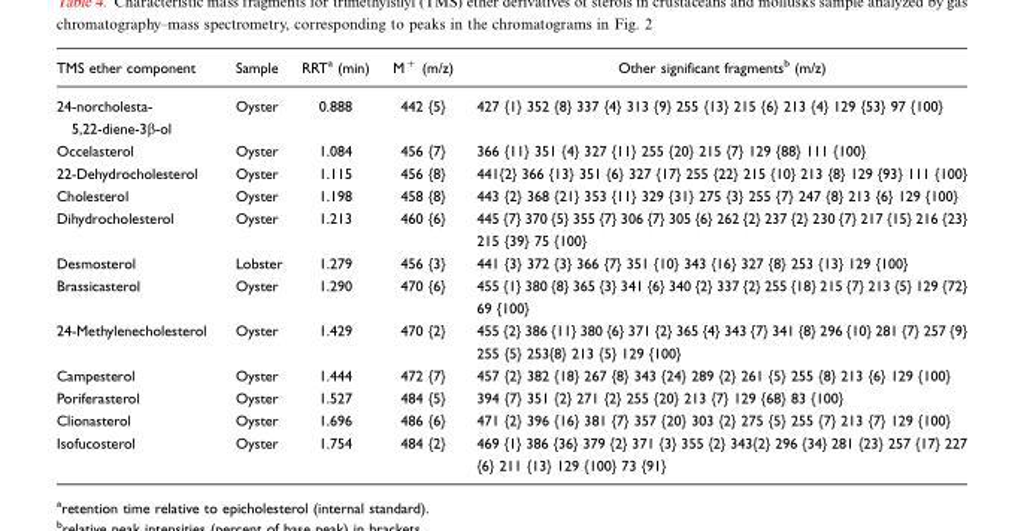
<table><thead><tr><td>TMS ether component</td><td>Sample</td><td>RRT<sup>a</sup> (min)</td><td>M<sup>+</sup> (m/z)</td><td>Other significant fragments<sup>b</sup> (m/z)</td></tr></thead><tbody><tr><td>24-norcholesta- 5,22-diene-3b-ol</td><td>Oyster</td><td>0.888</td><td>442 {5}</td><td>427 {1} 352 {8} 337 {4} 313 {9} 255 {13} 215 {6} 213 {4} 129 {53} 97 {100}</td></tr><tr><td>Occelasterol</td><td>Oyster</td><td>1.084</td><td>456 {7}</td><td>366 {11} 351 {4} 327 {11} 255 {20} 215 {7} 129 {88} 111 {100}</td></tr><tr><td>22-Dehydrocholesterol</td><td>Oyster</td><td>1.115</td><td>456 {8}</td><td>441{2} 366 {13} 351 {6} 327 {17} 255 {22} 215 {10} 213 {8} 129 {93} 111 {100}</td></tr><tr><td>Cholesterol</td><td>Oyster</td><td>1.198</td><td>458 {8}</td><td>443 {2} 368 {21} 353 {11} 329 {31} 275 {3} 255 {7} 247 {8} 213 {6} 129 {100}</td></tr><tr><td>Dihydrocholesterol</td><td>Oyster</td><td>1.213</td><td>460 {6}</td><td>445 {7} 370 {5} 355 {7} 306 {7} 305 {6} 262 {2} 237 {2} 230 {7} 217 {15} 216 {23} 215 {39} 75 {100}</td></tr><tr><td>Desmosterol</td><td>Lobster</td><td>1.279</td><td>456 {3}</td><td>441 {3} 372 {3} 366 {7} 351 {10} 343 {16} 327 {8} 253 {13} 129 {100}</td></tr><tr><td>Brassicasterol</td><td>Oyster</td><td>1.290</td><td>470 {6}</td><td>455 {1} 380 {8} 365 {3} 341 {6} 340 {2} 337 {2} 255 {18} 215 {7} 213 {5} 129 {72} 69 {100}</td></tr><tr><td>24-Methylenecholesterol</td><td>Oyster</td><td>1.429</td><td>470 {2}</td><td>455 {2} 386 {11} 380 {6} 371 {2} 365 {4} 343 {7} 341 {8} 296 {10} 281 {7} 257 {9} 255 {5} 253{8} 213 {5} 129 {100}</td></tr><tr><td>Campesterol</td><td>Oyster</td><td>1.444</td><td>472 {7}</td><td>457 {2} 382 {18} 267 {8} 343 {24} 289 {2} 261 {5} 255 {8} 213 {6} 129 {100}</td></tr><tr><td>Poriferasterol</td><td>Oyster</td><td>1.527</td><td>484 {5}</td><td>394 {7} 351 {2} 271 {2} 255 {20} 213 {7} 129 {68} 83 {100}</td></tr><tr><td>Clionasterol</td><td>Oyster</td><td>1.696</td><td>486 {6}</td><td>471 {2} 396 {16} 381 {7} 357 {20} 303 {2} 275 {5} 255 {7} 213 {7} 129 {100}</td></tr><tr><td>Isofucosterol</td><td>Oyster</td><td>1.754</td><td>484 {2}</td><td>469 {1} 386 {36} 379 {2} 371 {3} 355 {2} 343{2} 296 {34} 281 {23} 257 {17} 227 {6} 211 {13} 129 {100} 73 {91}</td></tr></tbody></table>